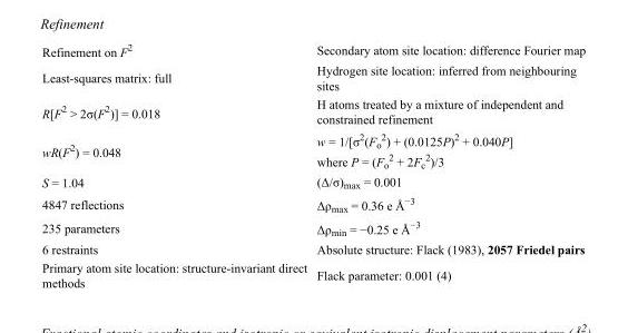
<table><tbody><tr><td>Refinement on F<sup>2</sup></td><td>Secondary atom site location: difference Fourier map</td></tr><tr><td>Least-squares matrix: full</td><td>Hydrogen site location: inferred from neighbouring sites</td></tr><tr><td>R[F<sup>2</sup> &gt; 2σ(F<sup>2</sup>)] = 0.018</td><td>H atoms treated by a mixture of independent and constrained refinement</td></tr><tr><td>wR(F<sup>2</sup>) = 0.048</td><td>w = 1/[σ<sup>2</sup>(F<sub>o</sub> <sup>2</sup>) + (0.0125P)<sup>2</sup> + 0.040P] where P = (F<sub>o</sub> <sup>2</sup> + 2F<sub>c</sub> <sup>2</sup>)/3</td></tr><tr><td>S = 1.04</td><td>(Δ/σ)<sub>max</sub> = 0.001</td></tr><tr><td>4847 reflections</td><td>Δρ<sub>max</sub> = 0.36 e Å<sup>−3</sup></td></tr><tr><td>235 parameters</td><td>Δρ<sub>min</sub> = −0.25 e Å<sup>−3</sup></td></tr><tr><td>6 restraints</td><td>Absolute structure: Flack (1983), 2057 Friedel pairs</td></tr><tr><td>Primary atom site location: structure-invariant direct methods</td><td>Flack parameter: 0.001 (4)</td></tr></tbody></table>